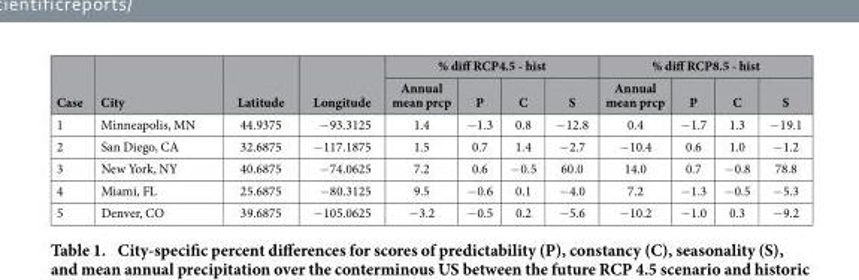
<table><thead><tr><td rowspan="2">Case</td><td rowspan="2">City</td><td rowspan="2">Latitude</td><td rowspan="2">Longitude</td><td colspan="4">% diff RCP4.5 - hist</td><td colspan="4">% diff RCP8.5 - hist</td></tr><tr><td>Annual mean prcp</td><td>P</td><td>C</td><td>S</td><td>Annual mean prcp</td><td>P</td><td>C</td><td>S</td></tr></thead><tbody><tr><td>1</td><td>Minneapolis, MN</td><td>44.9375</td><td>− 93.3125</td><td>1.4</td><td>− 1.3</td><td>0.8</td><td>− 12.8</td><td>0.4</td><td>− 1.7</td><td>1.3</td><td>− 19.1</td></tr><tr><td>2</td><td>San Diego, CA</td><td>32.6875</td><td>− 117.1875</td><td>1.5</td><td>0.7</td><td>1.4</td><td>− 2.7</td><td>− 10.4</td><td>0.6</td><td>1.0</td><td>− 1.2</td></tr><tr><td>3</td><td>New York, NY</td><td>40.6875</td><td>− 74.0625</td><td>7.2</td><td>0.6</td><td>− 0.5</td><td>60.0</td><td>14.0</td><td>0.7</td><td>− 0.8</td><td>78.8</td></tr><tr><td>4</td><td>Miami, FL</td><td>25.6875</td><td>− 80.3125</td><td>9.5</td><td>− 0.6</td><td>0.1</td><td>− 4.0</td><td>7.2</td><td>− 1.3</td><td>− 0.5</td><td>− 5.3</td></tr><tr><td>5</td><td>Denver, CO</td><td>39.6875</td><td>− 105.0625</td><td>− 3.2</td><td>− 0.5</td><td>0.2</td><td>− 5.6</td><td>− 10.2</td><td>− 1.0</td><td>0.3</td><td>− 9.2</td></tr></tbody></table>